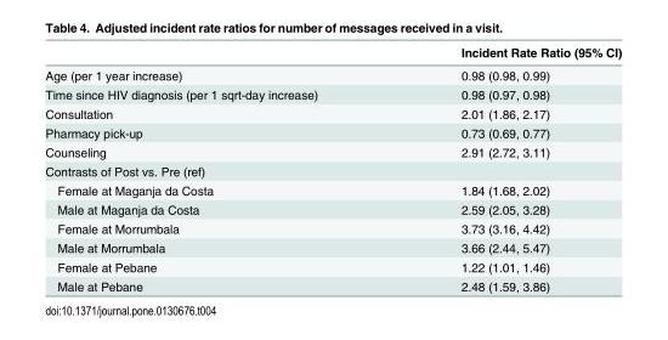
<table><thead><tr><td></td><td>Incident Rate Ratio (95% CI)</td></tr></thead><tbody><tr><td>Age (per 1 year increase)</td><td>0.98 (0.98, 0.99)</td></tr><tr><td>Time since HIV diagnosis (per 1 sqrt-day increase)</td><td>0.98 (0.97, 0.98)</td></tr><tr><td>Consultation</td><td>2.01 (1.86, 2.17)</td></tr><tr><td>Pharmacy pick-up</td><td>0.73 (0.69, 0.77)</td></tr><tr><td>Counseling</td><td>2.91 (2.72, 3.11)</td></tr><tr><td colspan="2">Contrasts of Post vs. Pre (ref)</td></tr><tr><td>Female at Maganja da Costa</td><td>1.84 (1.68, 2.02)</td></tr><tr><td>Male at Maganja da Costa</td><td>2.59 (2.05, 3.28)</td></tr><tr><td>Female at Morrumbala</td><td>3.73 (3.16, 4.42)</td></tr><tr><td>Male at Morrumbala</td><td>3.66 (2.44, 5.47)</td></tr><tr><td>Female at Pebane</td><td>1.22 (1.01, 1.46)</td></tr><tr><td>Male at Pebane</td><td>2.48 (1.59, 3.86)</td></tr></tbody></table>